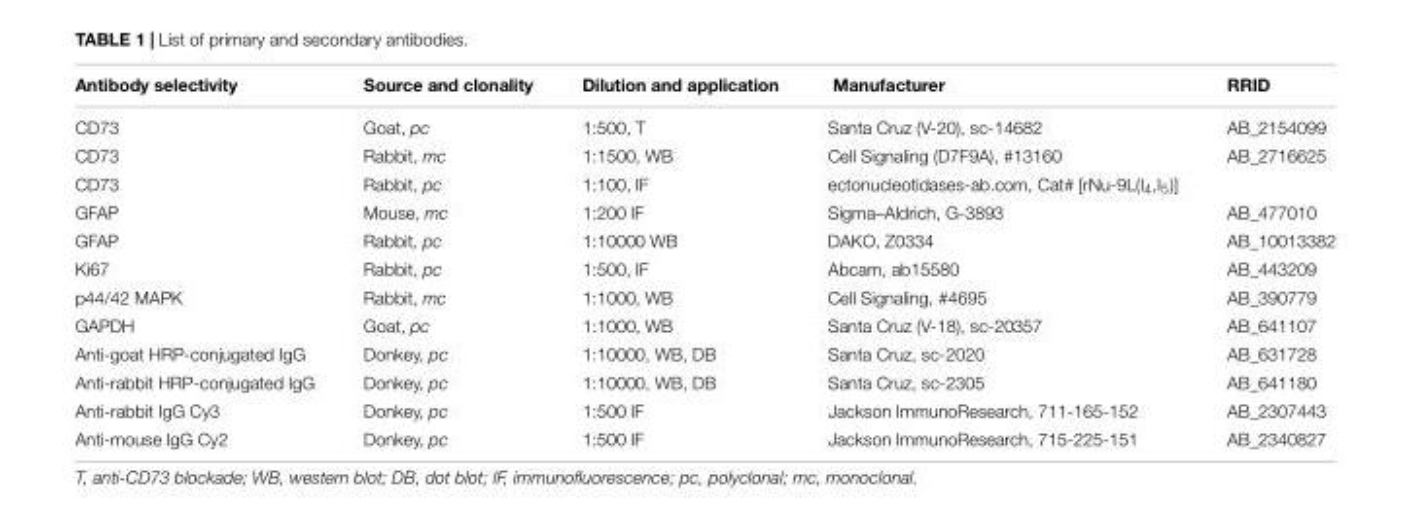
<table><thead><tr><td>Antibody selectivity</td><td>Source and clonality</td><td>Dilution and application</td><td>Manufacturer</td><td>RRID</td></tr></thead><tbody><tr><td>CD73</td><td>Goat, pc</td><td>1:500, T</td><td>Santa Cruz (V-20), sc-14682</td><td>AB_2154099</td></tr><tr><td>CD73</td><td>Rabbit, mc</td><td>1:1500, WB</td><td>Cell Signaling (D7F9A), #13160</td><td>AB_2716625</td></tr><tr><td>CD73</td><td>Rabbit, pc</td><td>1:100, IF</td><td>ectonucleotidases-ab.com, Cat# [rNu-9L(I<sub>4</sub>,I<sub>5</sub>)]</td><td></td></tr><tr><td>GFAP</td><td>Mouse, mc</td><td>1:200 IF</td><td>Sigma–Aldrich, G-3893</td><td>AB_477010</td></tr><tr><td>GFAP</td><td>Rabbit, pc</td><td>1:10000 WB</td><td>DAKO, Z0334</td><td>AB_10013382</td></tr><tr><td>Ki67</td><td>Rabbit, pc</td><td>1:500, IF</td><td>Abcam, ab15580</td><td>AB_443209</td></tr><tr><td>p44/42 MAPK</td><td>Rabbit, mc</td><td>1:1000, WB</td><td>Cell Signaling, #4695</td><td>AB_390779</td></tr><tr><td>GAPDH</td><td>Goat, pc</td><td>1:1000, WB</td><td>Santa Cruz (V-18), sc-20357</td><td>AB_641107</td></tr><tr><td>Anti-goat HRP-conjugated IgG</td><td>Donkey, pc</td><td>1:10000, WB, DB</td><td>Santa Cruz, sc-2020</td><td>AB_631728</td></tr><tr><td>Anti-rabbit HRP-conjugated IgG</td><td>Donkey, pc</td><td>1:10000, WB, DB</td><td>Santa Cruz, sc-2305</td><td>AB_641180</td></tr><tr><td>Anti-rabbit IgG Cy3</td><td>Donkey, pc</td><td>1:500 IF</td><td>Jackson ImmunoResearch, 711-165-152</td><td>AB_2307443</td></tr><tr><td>Anti-mouse IgG Cy2</td><td>Donkey, pc</td><td>1:500 IF</td><td>Jackson ImmunoResearch, 715-225-151</td><td>AB_2340827</td></tr></tbody></table>